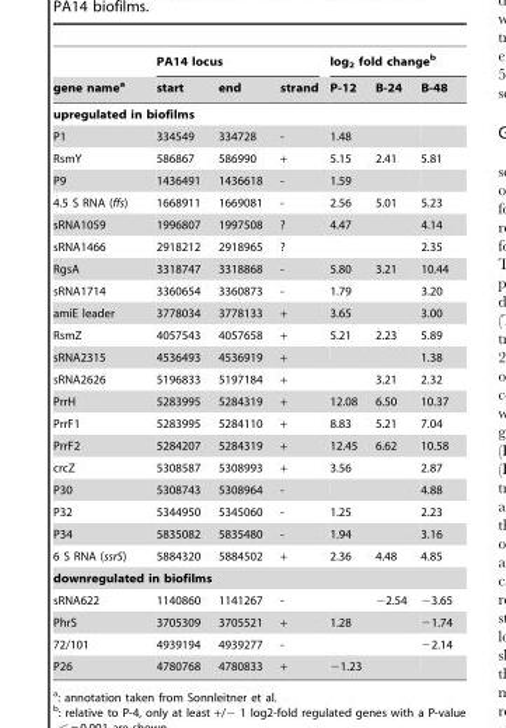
<table><thead><tr><td rowspan="2">gene name<sup>a</sup></td><td colspan="3">PA14 locus</td><td colspan="3">log<sub>2</sub> fold change<sup>b</sup></td></tr><tr><td>start</td><td>end</td><td>strand</td><td>P-12</td><td>B-24</td><td>B-48</td></tr></thead><tbody><tr><td colspan="7">upregulated in biofilms</td></tr><tr><td>P1</td><td>334549</td><td>334728</td><td>-</td><td>1.48</td><td></td><td></td></tr><tr><td>RsmY</td><td>586867</td><td>586990</td><td>+</td><td>5.15</td><td>2.41</td><td>5.81</td></tr><tr><td>P9</td><td>1436491</td><td>1436618</td><td>-</td><td>1.59</td><td></td><td></td></tr><tr><td>4.5 S RNA (ffs)</td><td>1668911</td><td>1669081</td><td>-</td><td>2.56</td><td>5.01</td><td>5.23</td></tr><tr><td>sRNA1059</td><td>1996807</td><td>1997508</td><td>?</td><td>4.47</td><td></td><td>4.14</td></tr><tr><td>sRNA1466</td><td>2918212</td><td>2918965</td><td>?</td><td></td><td></td><td>2.35</td></tr><tr><td>RgsA</td><td>3318747</td><td>3318868</td><td>-</td><td>5.80</td><td>3.21</td><td>10.44</td></tr><tr><td>sRNA1714</td><td>3360654</td><td>3360873</td><td>-</td><td>1.79</td><td></td><td>3.20</td></tr><tr><td>amiE leader</td><td>3778034</td><td>3778133</td><td>+</td><td>3.65</td><td></td><td>3.00</td></tr><tr><td>RsmZ</td><td>4057543</td><td>4057658</td><td>+</td><td>5.21</td><td>2.23</td><td>5.89</td></tr><tr><td>sRNA2315</td><td>4536493</td><td>4536919</td><td>+</td><td></td><td></td><td>1.38</td></tr><tr><td>sRNA2626</td><td>5196833</td><td>5197184</td><td>+</td><td></td><td>3.21</td><td>2.32</td></tr><tr><td>PrrH</td><td>5283995</td><td>5284319</td><td>+</td><td>12.08</td><td>6.50</td><td>10.37</td></tr><tr><td>PrrF1</td><td>5283995</td><td>5284110</td><td>+</td><td>8.83</td><td>5.21</td><td>7.04</td></tr><tr><td>PrrF2</td><td>5284207</td><td>5284319</td><td>+</td><td>12.45</td><td>6.62</td><td>10.58</td></tr><tr><td>crcZ</td><td>5308587</td><td>5308993</td><td>+</td><td>3.56</td><td></td><td>2.87</td></tr><tr><td>P30</td><td>5308743</td><td>5308964</td><td>-</td><td></td><td></td><td>4.88</td></tr><tr><td>P32</td><td>5344950</td><td>5345060</td><td>-</td><td>1.25</td><td></td><td>2.23</td></tr><tr><td>P34</td><td>5835082</td><td>5835480</td><td>-</td><td>1.94</td><td></td><td>3.16</td></tr><tr><td>6 S RNA (ssrS)</td><td>5884320</td><td>5884502</td><td>+</td><td>2.36</td><td>4.48</td><td>4.85</td></tr><tr><td colspan="7">downregulated in biofilms</td></tr><tr><td>sRNA622</td><td>1140860</td><td>1141267</td><td>-</td><td></td><td>−2.54</td><td>−3.65</td></tr><tr><td>PhrS</td><td>3705309</td><td>3705521</td><td>+</td><td>1.28</td><td></td><td>−1.74</td></tr><tr><td>72/101</td><td>4939194</td><td>4939277</td><td>-</td><td></td><td></td><td>−2.14</td></tr><tr><td>P26</td><td>4780768</td><td>4780833</td><td>+</td><td>−1.23</td><td></td><td></td></tr></tbody></table>